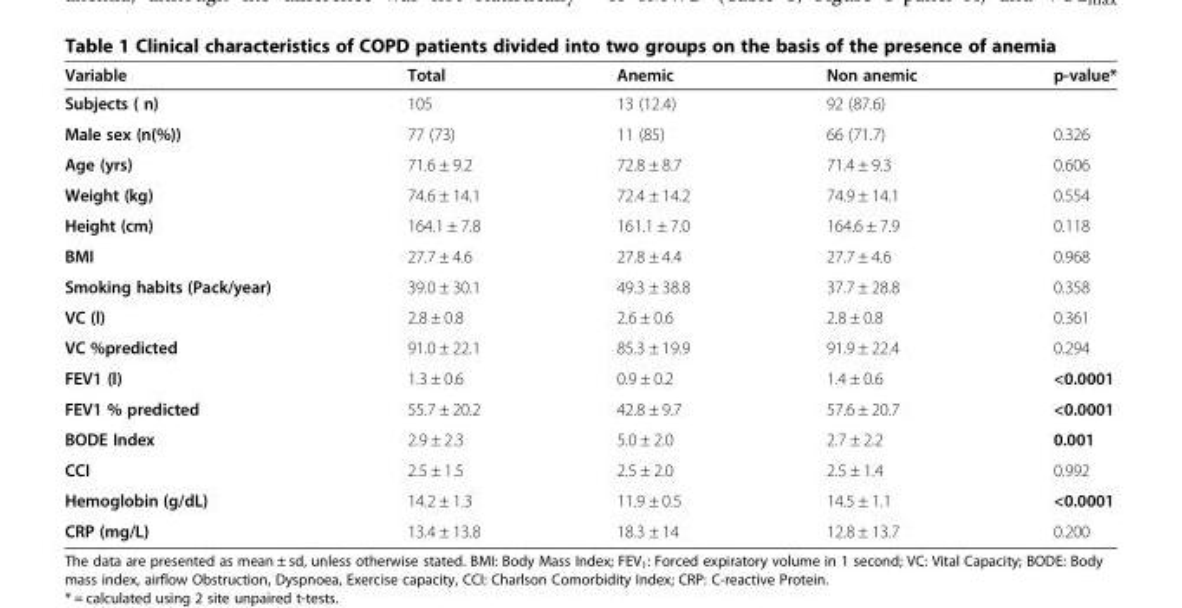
<table><thead><tr><td>Variable</td><td>Total</td><td>Anemic</td><td>Non anemic</td><td>p-value*</td></tr></thead><tbody><tr><td>Subjects ( n)</td><td>105</td><td>13 (12.4)</td><td>92 (87.6)</td><td></td></tr><tr><td>Male sex (n(%))</td><td>77 (73)</td><td>11 (85)</td><td>66 (71.7)</td><td>0.326</td></tr><tr><td>Age (yrs)</td><td>71.6 ± 9.2</td><td>72.8 ± 8.7</td><td>71.4 ± 9.3</td><td>0.606</td></tr><tr><td>Weight (kg)</td><td>74.6 ± 14.1</td><td>72.4 ± 14.2</td><td>74.9 ± 14.1</td><td>0.554</td></tr><tr><td>Height (cm)</td><td>164.1 ± 7.8</td><td>161.1 ± 7.0</td><td>164.6 ± 7.9</td><td>0.118</td></tr><tr><td>BMI</td><td>27.7 ± 4.6</td><td>27.8 ± 4.4</td><td>27.7 ± 4.6</td><td>0.968</td></tr><tr><td>Smoking habits (Pack/year)</td><td>39.0 ± 30.1</td><td>49.3 ± 38.8</td><td>37.7 ± 28.8</td><td>0.358</td></tr><tr><td>VC (l)</td><td>2.8 ± 0.8</td><td>2.6 ± 0.6</td><td>2.8 ± 0.8</td><td>0.361</td></tr><tr><td>VC %predicted</td><td>91.0 ± 22.1</td><td>85.3 ± 19.9</td><td>91.9 ± 22.4</td><td>0.294</td></tr><tr><td>FEV1 (l)</td><td>1.3 ± 0.6</td><td>0.9 ± 0.2</td><td>1.4 ± 0.6</td><td>&lt;0.0001</td></tr><tr><td>FEV1 % predicted</td><td>55.7 ± 20.2</td><td>42.8 ± 9.7</td><td>57.6 ± 20.7</td><td>&lt;0.0001</td></tr><tr><td>BODE Index</td><td>2.9 ± 2.3</td><td>5.0 ± 2.0</td><td>2.7 ± 2.2</td><td>0.001</td></tr><tr><td>CCI</td><td>2.5 ± 1.5</td><td>2.5 ± 2.0</td><td>2.5 ± 1.4</td><td>0.992</td></tr><tr><td>Hemoglobin (g/dL)</td><td>14.2 ± 1.3</td><td>11.9 ± 0.5</td><td>14.5 ± 1.1</td><td>&lt;0.0001</td></tr><tr><td>CRP (mg/L)</td><td>13.4 ± 13.8</td><td>18.3 ± 14</td><td>12.8 ± 13.7</td><td>0.200</td></tr></tbody></table>